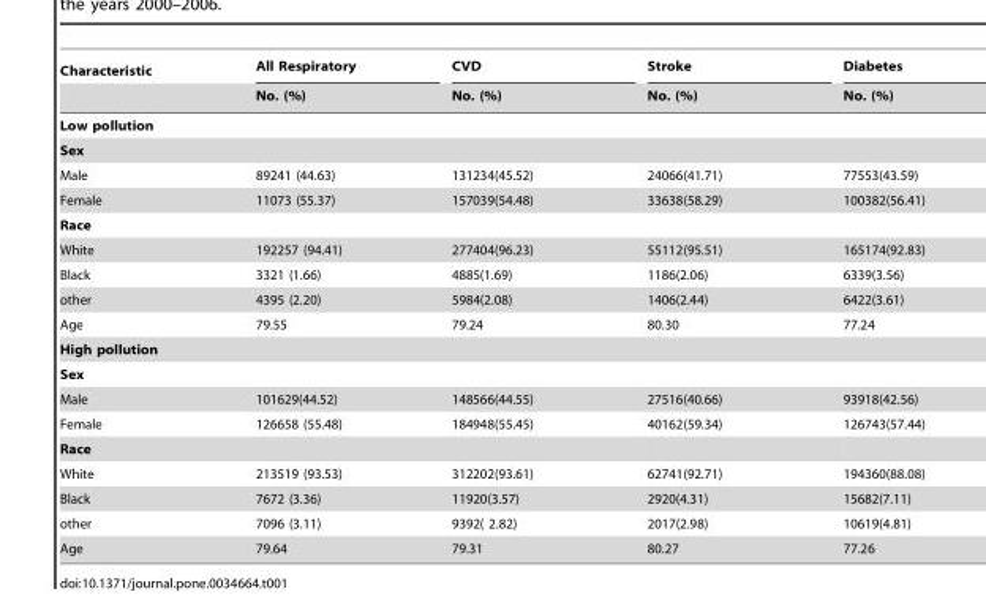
<table><thead><tr><td rowspan="2">Characteristic</td><td rowspan="2">All Respiratory No. (%)</td><td rowspan="2">CVD No. (%)</td><td rowspan="2">Stroke No. (%)</td><td rowspan="2">Diabetes No. (%)</td></tr><tr></tr></thead><tbody><tr><td colspan="5">Low pollution</td></tr><tr><td colspan="5">Sex</td></tr><tr><td>Male</td><td>89241 (44.63)</td><td>131234(45.52)</td><td>24066(41.71)</td><td>77553(43.59)</td></tr><tr><td>Female</td><td>11073 (55.37)</td><td>157039(54.48)</td><td>33638(58.29)</td><td>100382(56.41)</td></tr><tr><td colspan="5">Race</td></tr><tr><td>White</td><td>192257 (94.41)</td><td>277404(96.23)</td><td>55112(95.51)</td><td>165174(92.83)</td></tr><tr><td>Black</td><td>3321 (1.66)</td><td>4885(1.69)</td><td>1186(2.06)</td><td>6339(3.56)</td></tr><tr><td>other</td><td>4395 (2.20)</td><td>5984(2.08)</td><td>1406(2.44)</td><td>6422(3.61)</td></tr><tr><td>Age</td><td>79.55</td><td>79.24</td><td>80.30</td><td>77.24</td></tr><tr><td colspan="5">High pollution</td></tr><tr><td colspan="5">Sex</td></tr><tr><td>Male</td><td>101629(44.52)</td><td>148566(44.55)</td><td>27516(40.66)</td><td>93918(42.56)</td></tr><tr><td>Female</td><td>126658 (55.48)</td><td>184948(55.45)</td><td>40162(59.34)</td><td>126743(57.44)</td></tr><tr><td colspan="5">Race</td></tr><tr><td>White</td><td>213519 (93.53)</td><td>312202(93.61)</td><td>62741(92.71)</td><td>194360(88.08)</td></tr><tr><td>Black</td><td>7672 (3.36)</td><td>11920(3.57)</td><td>2920(4.31)</td><td>15682(7.11)</td></tr><tr><td>other</td><td>7096 (3.11)</td><td>9392( 2.82)</td><td>2017(2.98)</td><td>10619(4.81)</td></tr><tr><td>Age</td><td>79.64</td><td>79.31</td><td>80.27</td><td>77.26</td></tr></tbody></table>